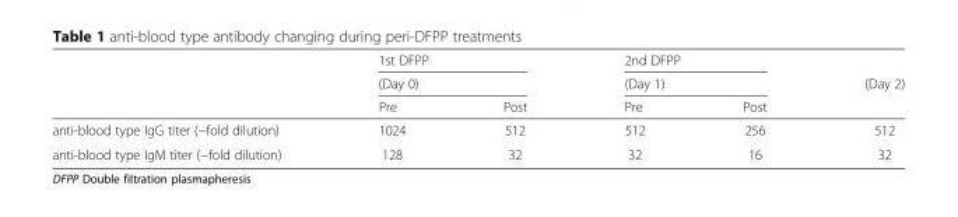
<table><thead><tr><td rowspan="3"></td><td rowspan="2" colspan="2">1st DFPP (Day 0)</td><td rowspan="2" colspan="2">2nd DFPP (Day 1)</td><td rowspan="3">(Day 2)</td></tr><tr></tr><tr><td>Pre</td><td>Post</td><td>Pre</td><td>Post</td></tr></thead><tbody><tr><td>anti-blood type IgG titer (−fold dilution)</td><td>1024</td><td>512</td><td>512</td><td>256</td><td>512</td></tr><tr><td>anti-blood type IgM titer (−fold dilution)</td><td>128</td><td>32</td><td>32</td><td>16</td><td>32</td></tr></tbody></table>